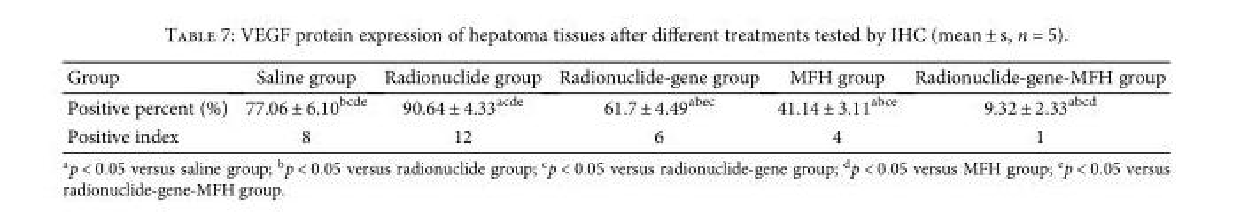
<table><thead><tr><td>Group</td><td>Saline group</td><td>Radionuclide group</td><td>Radionuclide-gene group</td><td>MFH group</td><td>Radionuclide-gene-MFH group</td></tr></thead><tbody><tr><td>Positive percent (%)</td><td>77.06 ± 6.10<sup>bcde</sup></td><td>90.64 ± 4.33<sup>acde</sup></td><td>61.7 ± 4.49<sup>abec</sup></td><td>41.14 ± 3.11<sup>abce</sup></td><td>9.32 ± 2.33<sup>abcd</sup></td></tr><tr><td>Positive index</td><td>8</td><td>12</td><td>6</td><td>4</td><td>1</td></tr></tbody></table>